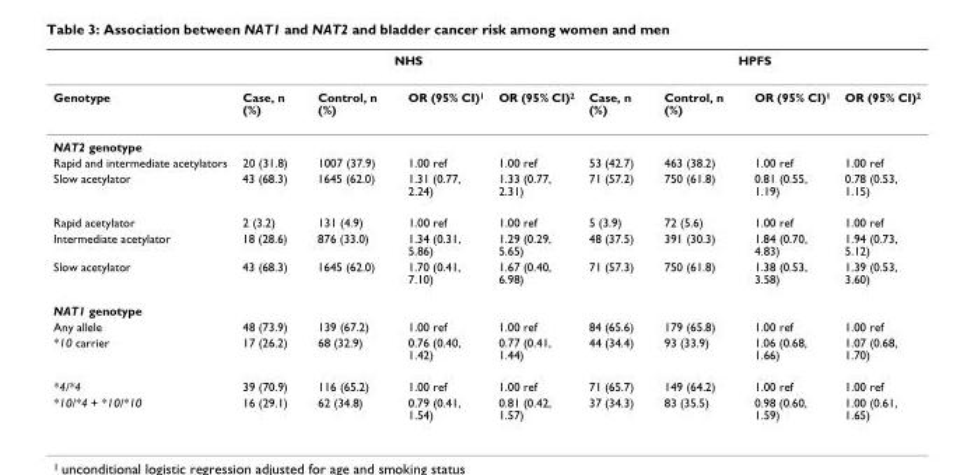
<table><thead><tr><td rowspan="2">Genotype</td><td colspan="4">NHS</td><td colspan="4">HPFS</td></tr><tr><td>Case, n (%)</td><td>Control, n (%)</td><td>OR (95% CI)1</td><td>OR (95% CI)2</td><td>Case, n (%)</td><td>Control, n (%)</td><td>OR (95% CI)1</td><td>OR (95% CI)2</td></tr></thead><tbody><tr><td colspan="9">NAT2 genotype</td></tr><tr><td>Rapid and intermediate acetylators</td><td>20 (31.8)</td><td>1007 (37.9)</td><td>1.00 ref</td><td>1.00 ref</td><td>53 (42.7)</td><td>463 (38.2)</td><td>1.00 ref</td><td>1.00 ref</td></tr><tr><td>Slow acetylator</td><td>43 (68.3)</td><td>1645 (62.0)</td><td>1.31 (0.77, 2.24)</td><td>1.33 (0.77, 2.31)</td><td>71 (57.2)</td><td>750 (61.8)</td><td>0.81 (0.55, 1.19)</td><td>0.78 (0.53, 1.15)</td></tr><tr><td>Rapid acetylator</td><td>2 (3.2)</td><td>131 (4.9)</td><td>1.00 ref</td><td>1.00 ref</td><td>5 (3.9)</td><td>72 (5.6)</td><td>1.00 ref</td><td>1.00 ref</td></tr><tr><td>Intermediate acetylator</td><td>18 (28.6)</td><td>876 (33.0)</td><td>1.34 (0.31, 5.86)</td><td>1.29 (0.29, 5.65)</td><td>48 (37.5)</td><td>391 (30.3)</td><td>1.84 (0.70, 4.83)</td><td>1.94 (0.73, 5.12)</td></tr><tr><td>Slow acetylator</td><td>43 (68.3)</td><td>1645 (62.0)</td><td>1.70 (0.41, 7.10)</td><td>1.67 (0.40, 6.98)</td><td>71 (57.3)</td><td>750 (61.8)</td><td>1.38 (0.53, 3.58)</td><td>1.39 (0.53, 3.60)</td></tr><tr><td colspan="9">NAT1 genotype</td></tr><tr><td>Any allele</td><td>48 (73.9)</td><td>139 (67.2)</td><td>1.00 ref</td><td>1.00 ref</td><td>84 (65.6)</td><td>179 (65.8)</td><td>1.00 ref</td><td>1.00 ref</td></tr><tr><td>*10 carrier</td><td>17 (26.2)</td><td>68 (32.9)</td><td>0.76 (0.40, 1.42)</td><td>0.77 (0.41, 1.44)</td><td>44 (34.4)</td><td>93 (33.9)</td><td>1.06 (0.68, 1.66)</td><td>1.07 (0.68, 1.70)</td></tr><tr><td>*4/*4</td><td>39 (70.9)</td><td>116 (65.2)</td><td>1.00 ref</td><td>1.00 ref</td><td>71 (65.7)</td><td>149 (64.2)</td><td>1.00 ref</td><td>1.00 ref</td></tr><tr><td>*10/*4 + *10/*10</td><td>16 (29.1)</td><td>62 (34.8)</td><td>0.79 (0.41, 1.54)</td><td>0.81 (0.42, 1.57)</td><td>37 (34.3)</td><td>83 (35.5)</td><td>0.98 (0.60, 1.59)</td><td>1.00 (0.61, 1.65)</td></tr></tbody></table>